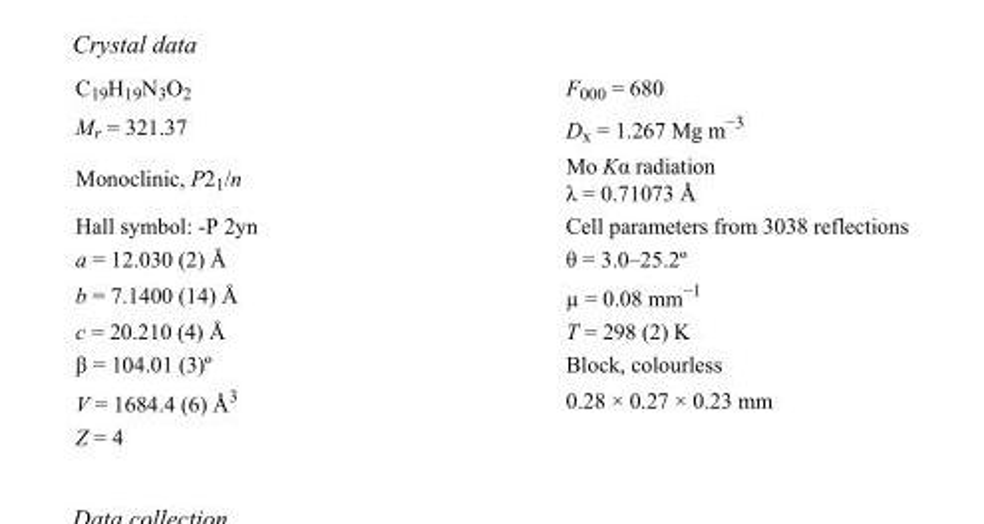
<table><tbody><tr><td>C<sub>19</sub>H<sub>19</sub>N<sub>3</sub>O<sub>2</sub></td><td>F000 = 680</td></tr><tr><td>M<sub>r</sub> = 321.37</td><td>D<sub>x</sub> = 1.267 Mg m<sup>−3</sup></td></tr><tr><td>Monoclinic, P2<sub>1</sub>/n</td><td>Mo Kα radiation λ = 0.71073 Å</td></tr><tr><td>Hall symbol: -P 2yn</td><td>Cell parameters from 3038 reflections</td></tr><tr><td>a = 12.030 (2) Å</td><td>θ = 3.0–25.2º</td></tr><tr><td>b = 7.1400 (14) Å</td><td>µ = 0.08 mm<sup>−1</sup></td></tr><tr><td>c = 20.210 (4) Å</td><td>T = 298 (2) K</td></tr><tr><td>β = 104.01 (3)º</td><td>Block, colourless</td></tr><tr><td>V = 1684.4 (6) Å<sup>3</sup></td><td>0.28 × 0.27 × 0.23 mm</td></tr><tr><td>Z = 4</td><td></td></tr></tbody></table>